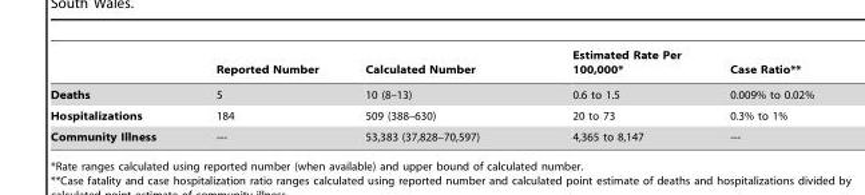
<table><thead><tr><td></td><td>Reported Number</td><td>Calculated Number</td><td>Estimated Rate Per 100,000*</td><td>Case Ratio**</td></tr></thead><tbody><tr><td>Deaths</td><td>5</td><td>10 (8–13)</td><td>0.6 to 1.5</td><td>0.009% to 0.02%</td></tr><tr><td>Hospitalizations</td><td>184</td><td>509 (388–630)</td><td>20 to 73</td><td>0.3% to 1%</td></tr><tr><td>Community Illness</td><td>---</td><td>53,383 (37,828–70,597)</td><td>4,365 to 8,147</td><td>---</td></tr></tbody></table>